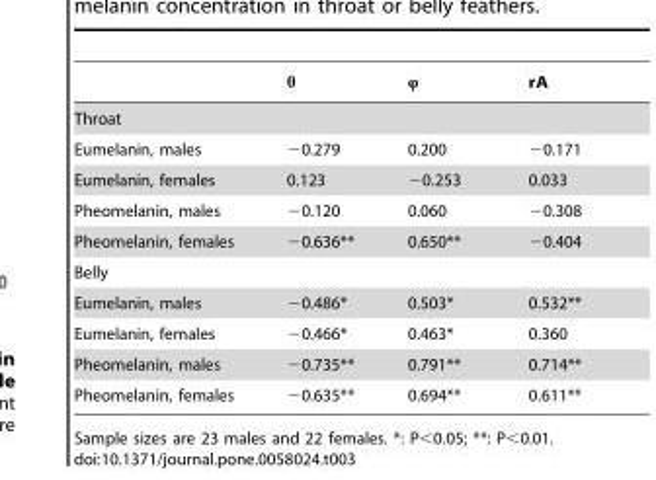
<table><thead><tr><td></td><td>θ</td><td>φ</td><td>rA</td></tr></thead><tbody><tr><td colspan="4">Throat</td></tr><tr><td>Eumelanin, males</td><td>−0.279</td><td>0.200</td><td>−0.171</td></tr><tr><td>Eumelanin, females</td><td>0.123</td><td>−0.253</td><td>0.033</td></tr><tr><td>Pheomelanin, males</td><td>−0.120</td><td>0.060</td><td>−0.308</td></tr><tr><td>Pheomelanin, females</td><td>−0.636**</td><td>0.650**</td><td>−0.404</td></tr><tr><td colspan="4">Belly</td></tr><tr><td>Eumelanin, males</td><td>−0.486*</td><td>0.503*</td><td>0.532**</td></tr><tr><td>Eumelanin, females</td><td>−0.466*</td><td>0.463*</td><td>0.360</td></tr><tr><td>Pheomelanin, males</td><td>−0.735**</td><td>0.791**</td><td>0.714**</td></tr><tr><td>Pheomelanin, females</td><td>−0.635**</td><td>0.694**</td><td>0.611**</td></tr></tbody></table>